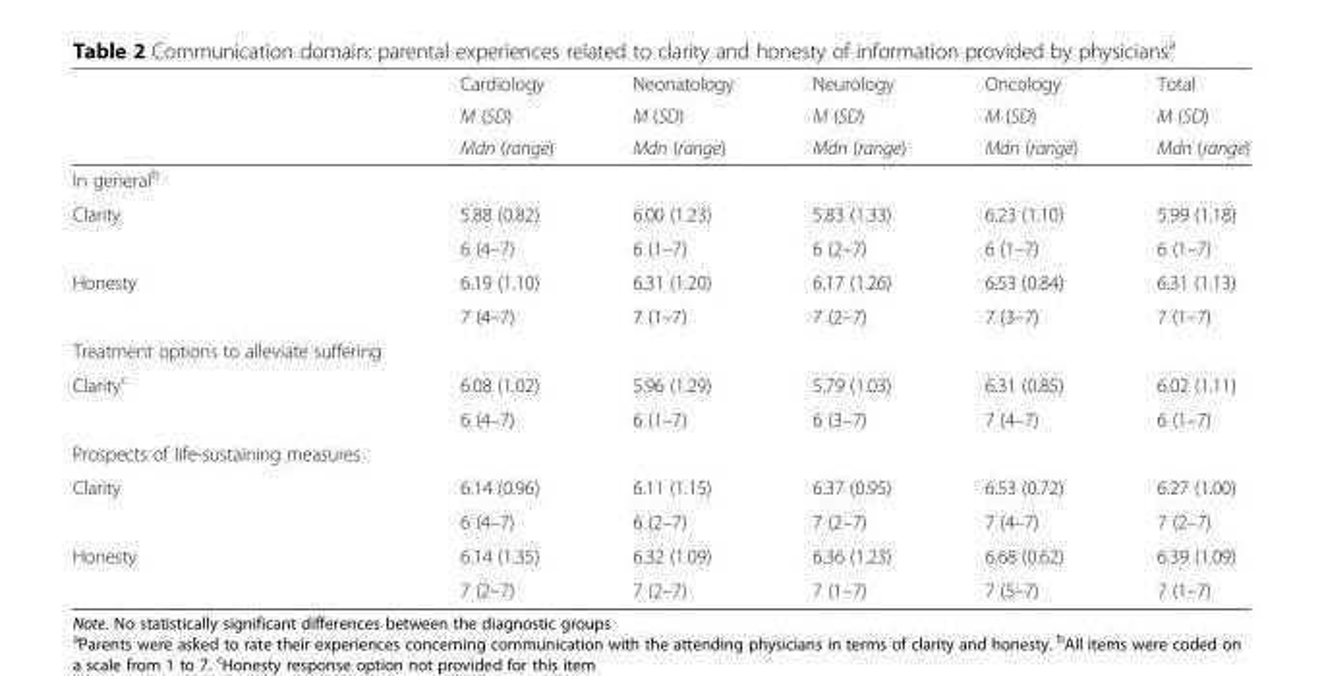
<table><thead><tr><td rowspan="3"></td><td rowspan="3">Cardiology M (SD) Mdn (range)</td><td rowspan="3">Neonatology M (SD) Mdn (range)</td><td rowspan="3">Neurology M (SD) Mdn (range)</td><td rowspan="3">Oncology M (SD) Mdn (range)</td><td rowspan="3">Total M (SD) Mdn (range)</td></tr><tr></tr><tr></tr></thead><tbody><tr><td colspan="6">In general<sup>b</sup></td></tr><tr><td rowspan="2">Clarity</td><td>5.88 (0.82)</td><td>6.00 (1.23)</td><td>5.83 (1.33)</td><td>6.23 (1.10)</td><td>5.99 (1.18)</td></tr><tr><td>6 (4–7)</td><td>6 (1–7)</td><td>6 (2–7)</td><td>6 (1–7)</td><td>6 (1–7)</td></tr><tr><td rowspan="2">Honesty</td><td>6.19 (1.10)</td><td>6.31 (1.20)</td><td>6.17 (1.26)</td><td>6.53 (0.84)</td><td>6.31 (1.13)</td></tr><tr><td>7 (4–7)</td><td>7 (1–7)</td><td>7 (2–7)</td><td>7 (3–7)</td><td>7 (1–7)</td></tr><tr><td colspan="6">Treatment options to alleviate suffering</td></tr><tr><td rowspan="2">Clarity<sup>c</sup></td><td>6.08 (1.02)</td><td>5.96 (1.29)</td><td>5.79 (1.03)</td><td>6.31 (0.85)</td><td>6.02 (1.11)</td></tr><tr><td>6 (4–7)</td><td>6 (1–7)</td><td>6 (3–7)</td><td>7 (4–7)</td><td>6 (1–7)</td></tr><tr><td colspan="6">Prospects of life-sustaining measures</td></tr><tr><td rowspan="2">Clarity</td><td>6.14 (0.96)</td><td>6.11 (1.15)</td><td>6.37 (0.95)</td><td>6.53 (0.72)</td><td>6.27 (1.00)</td></tr><tr><td>6 (4–7)</td><td>6 (2–7)</td><td>7 (2–7)</td><td>7 (4–7)</td><td>7 (2–7)</td></tr><tr><td rowspan="2">Honesty</td><td>6.14 (1.35)</td><td>6.32 (1.09)</td><td>6.36 (1.23)</td><td>6.68 (0.62)</td><td>6.39 (1.09)</td></tr><tr><td>7 (2–7)</td><td>7 (2–7)</td><td>7 (1–7)</td><td>7 (5–7)</td><td>7 (1–7)</td></tr></tbody></table>